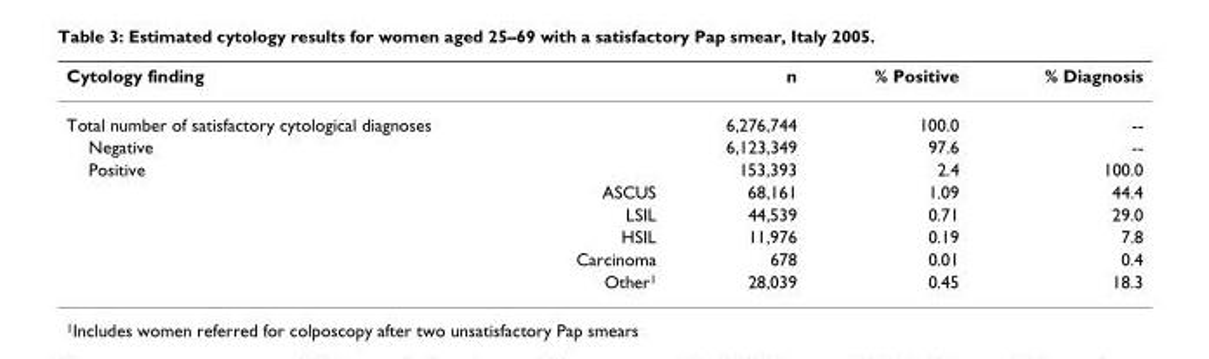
<table><thead><tr><td>Cytology finding</td><td>n</td><td>% Positive</td><td>% Diagnosis</td></tr></thead><tbody><tr><td>Total number of satisfactory cytological diagnoses</td><td>6,276,744</td><td>100.0</td><td>--</td></tr><tr><td>Negative</td><td>6,123,349</td><td>97.6</td><td>--</td></tr><tr><td>Positive</td><td>153,393</td><td>2.4</td><td>100.0</td></tr><tr><td>ASCUS</td><td>68,161</td><td>1.09</td><td>44.4</td></tr><tr><td>LSIL</td><td>44,539</td><td>0.71</td><td>29.0</td></tr><tr><td>HSIL</td><td>11,976</td><td>0.19</td><td>7.8</td></tr><tr><td>Carcinoma</td><td>678</td><td>0.01</td><td>0.4</td></tr><tr><td>Other<sup>1</sup></td><td>28,039</td><td>0.45</td><td>18.3</td></tr></tbody></table>